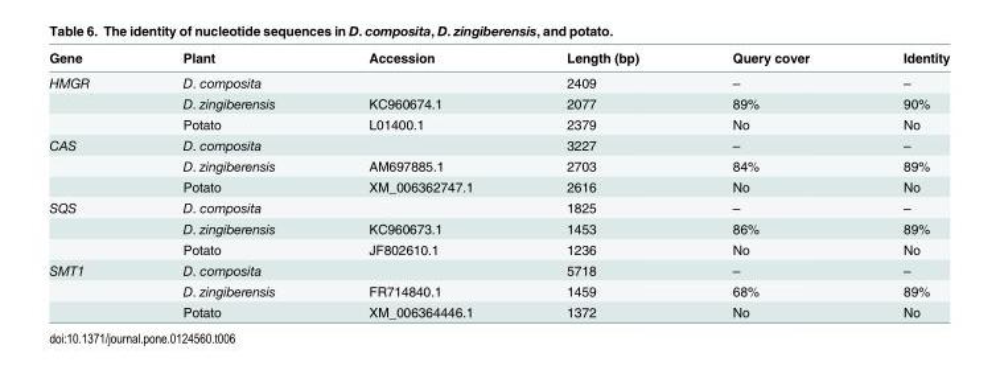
<table><thead><tr><td>Gene</td><td>Plant</td><td>Accession</td><td>Length (bp)</td><td>Query cover</td><td>Identity</td></tr></thead><tbody><tr><td rowspan="3">HMGR</td><td>D. composita</td><td></td><td>2409</td><td>–</td><td>–</td></tr><tr><td>D. zingiberensis</td><td>KC960674.1</td><td>2077</td><td>89%</td><td>90%</td></tr><tr><td>Potato</td><td>L01400.1</td><td>2379</td><td>No</td><td>No</td></tr><tr><td rowspan="3">CAS</td><td>D. composita</td><td></td><td>3227</td><td>–</td><td>–</td></tr><tr><td>D. zingiberensis</td><td>AM697885.1</td><td>2703</td><td>84%</td><td>89%</td></tr><tr><td>Potato</td><td>XM_006362747.1</td><td>2616</td><td>No</td><td>No</td></tr><tr><td rowspan="3">SQS</td><td>D. composita</td><td></td><td>1825</td><td>–</td><td>–</td></tr><tr><td>D. zingiberensis</td><td>KC960673.1</td><td>1453</td><td>86%</td><td>89%</td></tr><tr><td>Potato</td><td>JF802610.1</td><td>1236</td><td>No</td><td>No</td></tr><tr><td rowspan="3">SMT1</td><td>D. composita</td><td></td><td>5718</td><td>–</td><td>–</td></tr><tr><td>D. zingiberensis</td><td>FR714840.1</td><td>1459</td><td>68%</td><td>89%</td></tr><tr><td>Potato</td><td>XM_006364446.1</td><td>1372</td><td>No</td><td>No</td></tr></tbody></table>